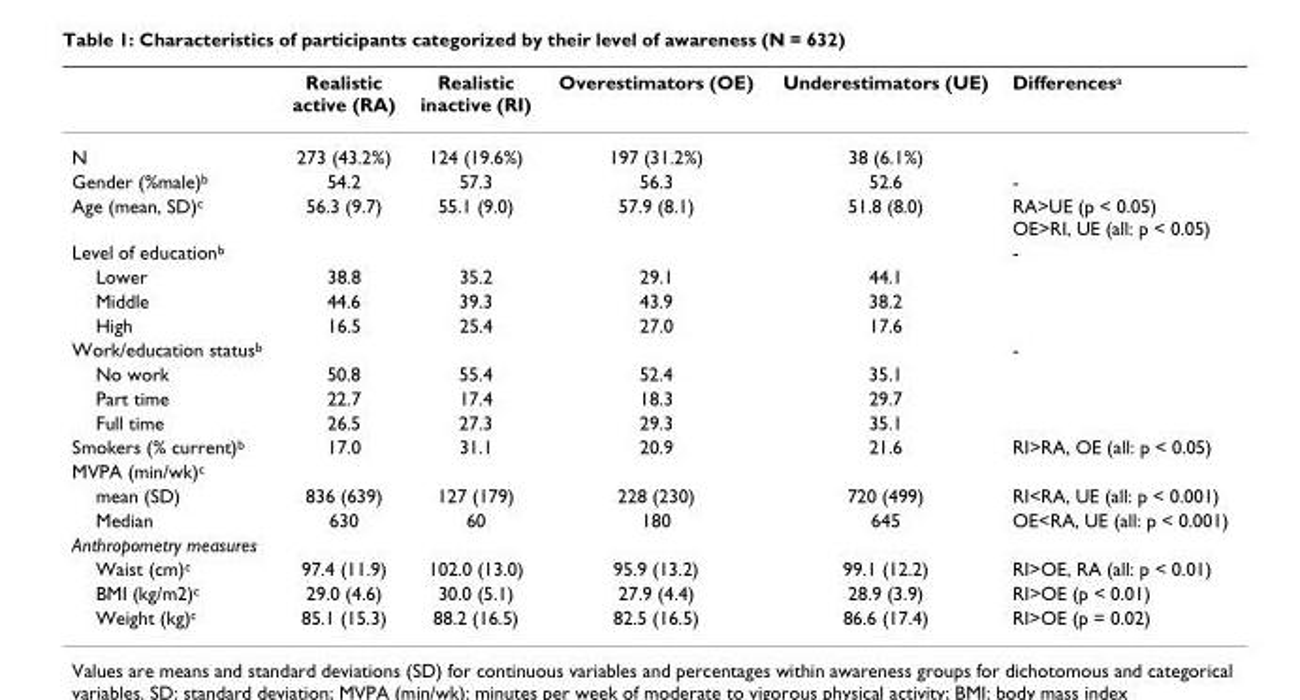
<table><thead><tr><td></td><td>Realistic active (RA)</td><td>Realistic inactive (RI)</td><td>Overestimators (OE)</td><td>Underestimators (UE)</td><td>Differences<sup>a</sup></td></tr></thead><tbody><tr><td>N</td><td>273 (43.2%)</td><td>124 (19.6%)</td><td>197 (31.2%)</td><td>38 (6.1%)</td><td></td></tr><tr><td>Gender (%male)<sup>b</sup></td><td>54.2</td><td>57.3</td><td>56.3</td><td>52.6</td><td>-</td></tr><tr><td>Age (mean, SD)<sup>c</sup></td><td>56.3 (9.7)</td><td>55.1 (9.0)</td><td>57.9 (8.1)</td><td>51.8 (8.0)</td><td>RA&gt;UE (p &lt; 0.05) OE&gt;RI, UE (all: p &lt; 0.05)</td></tr><tr><td>Level of education<sup>b</sup></td><td></td><td></td><td></td><td></td><td>-</td></tr><tr><td>Lower</td><td>38.8</td><td>35.2</td><td>29.1</td><td>44.1</td><td></td></tr><tr><td>Middle</td><td>44.6</td><td>39.3</td><td>43.9</td><td>38.2</td><td></td></tr><tr><td>High</td><td>16.5</td><td>25.4</td><td>27.0</td><td>17.6</td><td></td></tr><tr><td>Work/education status<sup>b</sup></td><td></td><td></td><td></td><td></td><td>-</td></tr><tr><td>No work</td><td>50.8</td><td>55.4</td><td>52.4</td><td>35.1</td><td></td></tr><tr><td>Part time</td><td>22.7</td><td>17.4</td><td>18.3</td><td>29.7</td><td></td></tr><tr><td>Full time</td><td>26.5</td><td>27.3</td><td>29.3</td><td>35.1</td><td></td></tr><tr><td>Smokers (% current)<sup>b</sup></td><td>17.0</td><td>31.1</td><td>20.9</td><td>21.6</td><td>RI&gt;RA, OE (all: p &lt; 0.05)</td></tr><tr><td colspan="6">MVPA (min/wk)<sup>c</sup></td></tr><tr><td>mean (SD)</td><td>836 (639)</td><td>127 (179)</td><td>228 (230)</td><td>720 (499)</td><td>RI&lt;RA, UE (all: p &lt; 0.001)</td></tr><tr><td>Median</td><td>630</td><td>60</td><td>180</td><td>645</td><td>OE&lt;RA, UE (all: p &lt; 0.001)</td></tr><tr><td colspan="6">Anthropometry measures</td></tr><tr><td>Waist (cm)<sup>c</sup></td><td>97.4 (11.9)</td><td>102.0 (13.0)</td><td>95.9 (13.2)</td><td>99.1 (12.2)</td><td>RI&gt;OE, RA (all: p &lt; 0.01)</td></tr><tr><td>BMI (kg/m2)<sup>c</sup></td><td>29.0 (4.6)</td><td>30.0 (5.1)</td><td>27.9 (4.4)</td><td>28.9 (3.9)</td><td>RI&gt;OE (p &lt; 0.01)</td></tr><tr><td>Weight (kg)<sup>c</sup></td><td>85.1 (15.3)</td><td>88.2 (16.5)</td><td>82.5 (16.5)</td><td>86.6 (17.4)</td><td>RI&gt;OE (p = 0.02)</td></tr></tbody></table>